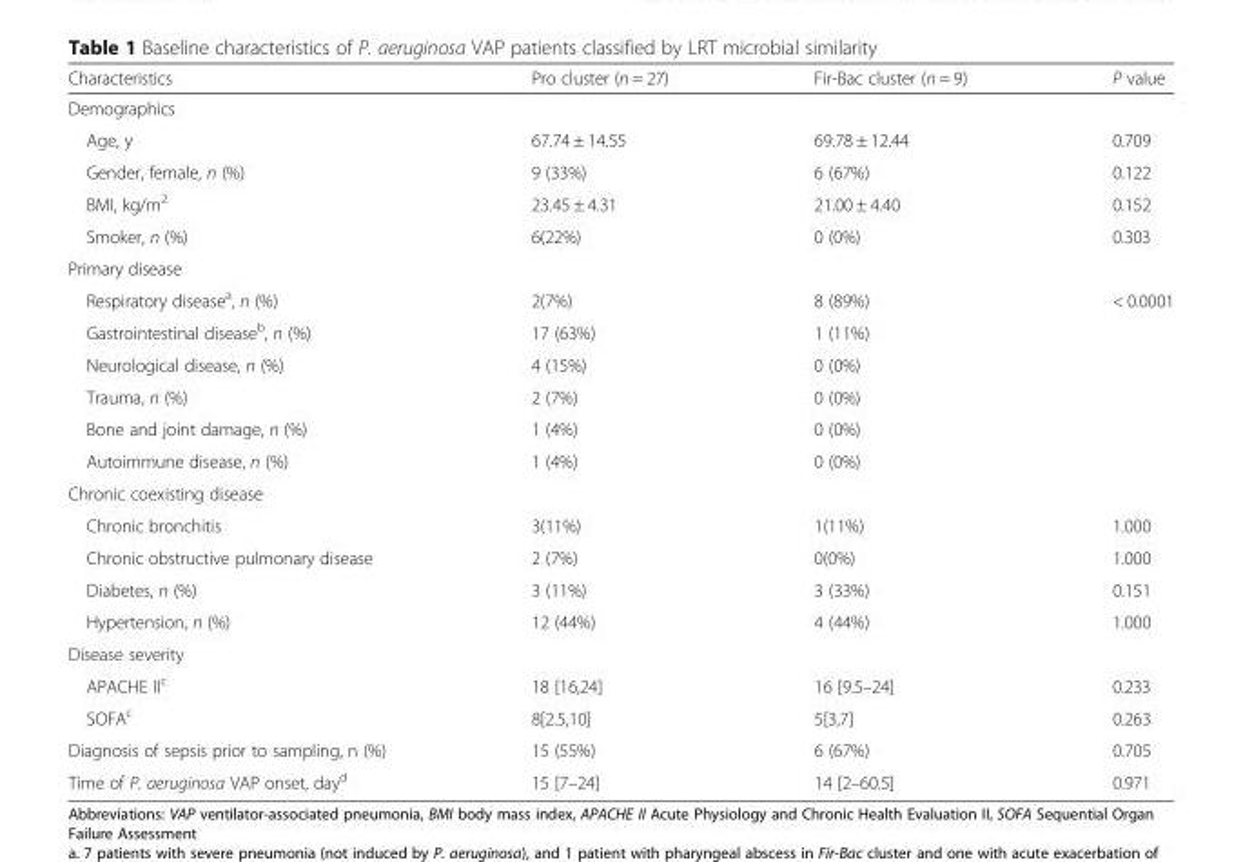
<table><thead><tr><td>Characteristics</td><td>Pro cluster (n = 27)</td><td>Fir-Bac cluster (n = 9)</td><td>P value</td></tr></thead><tbody><tr><td colspan="4">Demographics</td></tr><tr><td>Age, y</td><td>67.74 ± 14.55</td><td>69.78 ± 12.44</td><td>0.709</td></tr><tr><td>Gender, female, n (%)</td><td>9 (33%)</td><td>6 (67%)</td><td>0.122</td></tr><tr><td>BMI, kg/m<sup>2</sup></td><td>23.45 ± 4.31</td><td>21.00 ± 4.40</td><td>0.152</td></tr><tr><td>Smoker, n (%)</td><td>6(22%)</td><td>0 (0%)</td><td>0.303</td></tr><tr><td colspan="4">Primary disease</td></tr><tr><td>Respiratory disease<sup>a</sup>, n (%)</td><td>2(7%)</td><td>8 (89%)</td><td rowspan="6">&lt; 0.0001</td></tr><tr><td>Gastrointestinal disease<sup>b</sup>, n (%)</td><td>17 (63%)</td><td>1 (11%)</td></tr><tr><td>Neurological disease, n (%)</td><td>4 (15%)</td><td>0 (0%)</td></tr><tr><td>Trauma, n (%)</td><td>2 (7%)</td><td>0 (0%)</td></tr><tr><td>Bone and joint damage, n (%)</td><td>1 (4%)</td><td>0 (0%)</td></tr><tr><td>Autoimmune disease, n (%)</td><td>1 (4%)</td><td>0 (0%)</td></tr><tr><td colspan="4">Chronic coexisting disease</td></tr><tr><td>Chronic bronchitis</td><td>3(11%)</td><td>1(11%)</td><td>1.000</td></tr><tr><td>Chronic obstructive pulmonary disease</td><td>2 (7%)</td><td>0(0%)</td><td>1.000</td></tr><tr><td>Diabetes, n (%)</td><td>3 (11%)</td><td>3 (33%)</td><td>0.151</td></tr><tr><td>Hypertension, n (%)</td><td>12 (44%)</td><td>4 (44%)</td><td>1.000</td></tr><tr><td colspan="4">Disease severity</td></tr><tr><td>APACHE II<sup>c</sup></td><td>18 [16,24]</td><td>16 [9.5–24]</td><td>0.233</td></tr><tr><td>SOFA<sup>c</sup></td><td>8[2.5,10]</td><td>5[3,7]</td><td>0.263</td></tr><tr><td>Diagnosis of sepsis prior to sampling, n (%)</td><td>15 (55%)</td><td>6 (67%)</td><td>0.705</td></tr><tr><td>Time of P. aeruginosa VAP onset, day<sup>d</sup></td><td>15 [7–24]</td><td>14 [2–60.5]</td><td>0.971</td></tr></tbody></table>